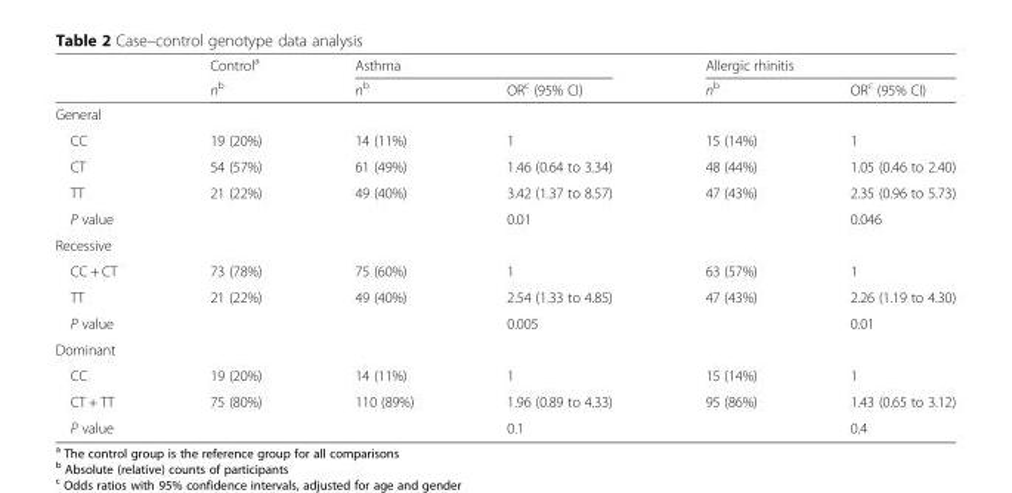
<table><thead><tr><td rowspan="2"></td><td rowspan="2">Control<sup>a</sup> n<sup>b</sup></td><td colspan="2">Asthma</td><td colspan="2">Allergic rhinitis</td></tr><tr><td>n<sup>b</sup></td><td>OR<sup>c</sup> (95% CI)</td><td>n<sup>b</sup></td><td>OR<sup>c</sup> (95% CI)</td></tr></thead><tbody><tr><td colspan="6">General</td></tr><tr><td>CC</td><td>19 (20%)</td><td>14 (11%)</td><td>1</td><td>15 (14%)</td><td>1</td></tr><tr><td>CT</td><td>54 (57%)</td><td>61 (49%)</td><td>1.46 (0.64 to 3.34)</td><td>48 (44%)</td><td>1.05 (0.46 to 2.40)</td></tr><tr><td>TT</td><td>21 (22%)</td><td>49 (40%)</td><td>3.42 (1.37 to 8.57)</td><td>47 (43%)</td><td>2.35 (0.96 to 5.73)</td></tr><tr><td>P value</td><td></td><td></td><td>0.01</td><td></td><td>0.046</td></tr><tr><td colspan="6">Recessive</td></tr><tr><td>CC + CT</td><td>73 (78%)</td><td>75 (60%)</td><td>1</td><td>63 (57%)</td><td>1</td></tr><tr><td>TT</td><td>21 (22%)</td><td>49 (40%)</td><td>2.54 (1.33 to 4.85)</td><td>47 (43%)</td><td>2.26 (1.19 to 4.30)</td></tr><tr><td>P value</td><td></td><td></td><td>0.005</td><td></td><td>0.01</td></tr><tr><td colspan="6">Dominant</td></tr><tr><td>CC</td><td>19 (20%)</td><td>14 (11%)</td><td>1</td><td>15 (14%)</td><td>1</td></tr><tr><td>CT + TT</td><td>75 (80%)</td><td>110 (89%)</td><td>1.96 (0.89 to 4.33)</td><td>95 (86%)</td><td>1.43 (0.65 to 3.12)</td></tr><tr><td>P value</td><td></td><td></td><td>0.1</td><td></td><td>0.4</td></tr></tbody></table>